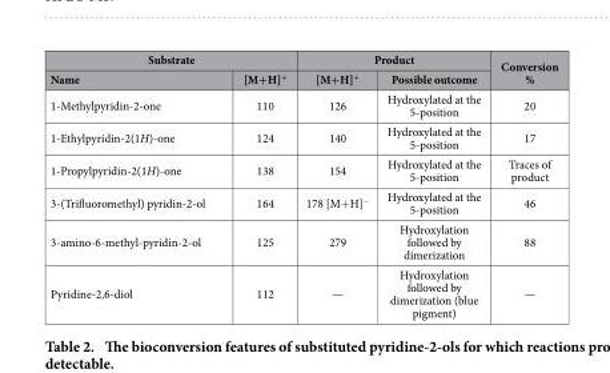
<table><thead><tr><td colspan="2">Substrate</td><td colspan="2">Product</td><td rowspan="2">Conversion %</td></tr><tr><td>Name</td><td>[M+H]<sup>+</sup></td><td>[M+H]<sup>+</sup></td><td>Possible outcome</td></tr></thead><tbody><tr><td>1-Methylpyridin-2-one</td><td>110</td><td>126</td><td>Hydroxylated at the 5-position</td><td>20</td></tr><tr><td>1-Ethylpyridin-2(1H)-one</td><td>124</td><td>140</td><td>Hydroxylated at the 5-position</td><td>17</td></tr><tr><td>1-Propylpyridin-2(1H)-one</td><td>138</td><td>154</td><td>Hydroxylated at the 5-position</td><td>Traces of product</td></tr><tr><td>3-(Trifluoromethyl) pyridin-2-ol</td><td>164</td><td>178 [M+ H]<sup>−</sup></td><td>Hydroxylated at the 5-position</td><td>46</td></tr><tr><td>3-amino-6-methyl-pyridin-2-ol</td><td>125</td><td>279</td><td>Hydroxylation followed by dimerization</td><td>88</td></tr><tr><td>Pyridine-2,6-diol</td><td>112</td><td>—</td><td>Hydroxylation followed by dimerization (blue pigment)</td><td>—</td></tr></tbody></table>